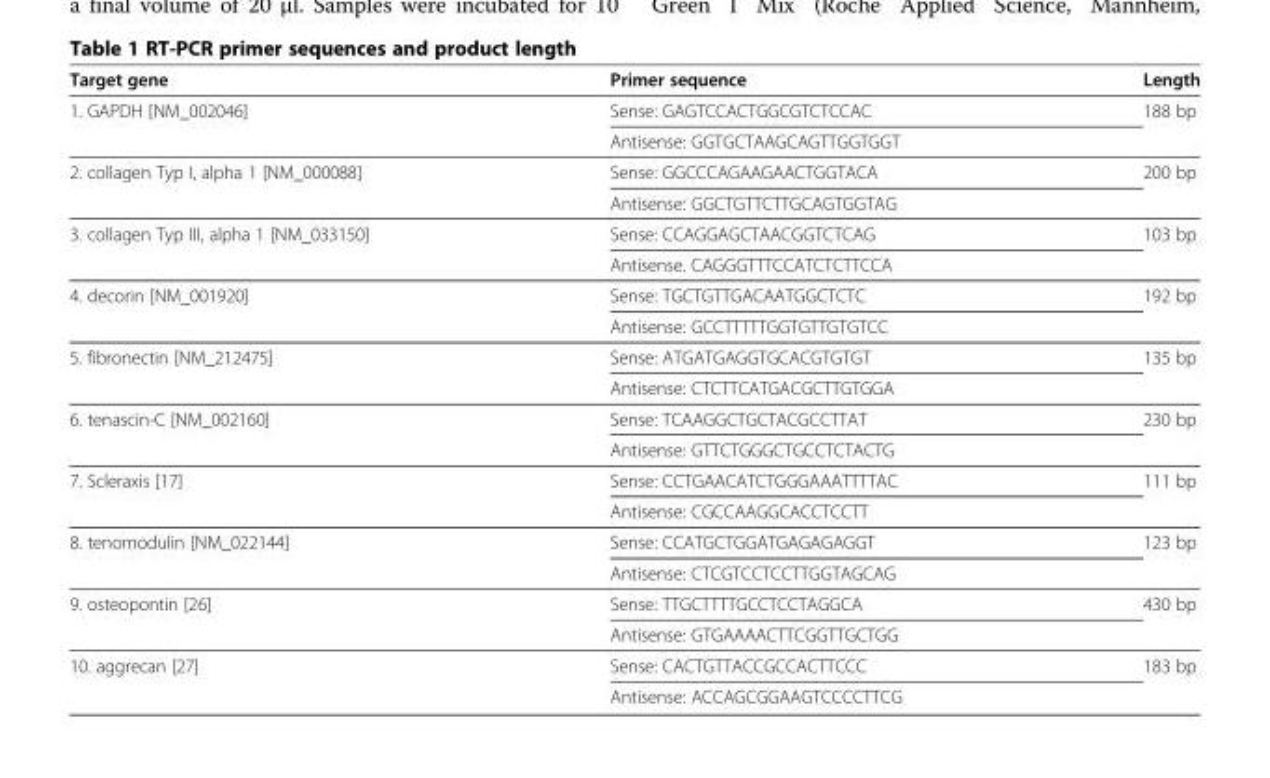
<table><thead><tr><td>Target gene</td><td>Primer sequence</td><td>Length</td></tr></thead><tbody><tr><td rowspan="2">1. GAPDH [NM_002046]</td><td>Sense: GAGTCCACTGGCGTCTCCAC</td><td>188 bp</td></tr><tr><td>Antisense: GGTGCTAAGCAGTTGGTGGT</td><td></td></tr><tr><td rowspan="2">2. collagen Typ I, alpha 1 [NM_000088]</td><td>Sense: GGCCCAGAAGAACTGGTACA</td><td>200 bp</td></tr><tr><td>Antisense: GGCTGTTCTTGCAGTGGTAG</td><td></td></tr><tr><td rowspan="2">3. collagen Typ III, alpha 1 [NM_033150]</td><td>Sense: CCAGGAGCTAACGGTCTCAG</td><td>103 bp</td></tr><tr><td>Antisense. CAGGGTTTCCATCTCTTCCA</td><td></td></tr><tr><td rowspan="2">4. decorin [NM_001920]</td><td>Sense: TGCTGTTGACAATGGCTCTC</td><td>192 bp</td></tr><tr><td>Antisense: GCCTTTTTGGTGTTGTGTCC</td><td></td></tr><tr><td rowspan="2">5. fibronectin [NM_212475]</td><td>Sense: ATGATGAGGTGCACGTGTGT</td><td>135 bp</td></tr><tr><td>Antisense: CTCTTCATGACGCTTGTGGA</td><td></td></tr><tr><td rowspan="2">6. tenascin-C [NM_002160]</td><td>Sense: TCAAGGCTGCTACGCCTTAT</td><td>230 bp</td></tr><tr><td>Antisense: GTTCTGGGCTGCCTCTACTG</td><td></td></tr><tr><td rowspan="2">7. Scleraxis [17]</td><td>Sense: CCTGAACATCTGGGAAATTTTAC</td><td>111 bp</td></tr><tr><td>Antisense: CGCCAAGGCACCTCCTT</td><td></td></tr><tr><td rowspan="2">8. tenomodulin [NM_022144]</td><td>Sense: CCATGCTGGATGAGAGAGGT</td><td>123 bp</td></tr><tr><td>Antisense: CTCGTCCTCCTTGGTAGCAG</td><td></td></tr><tr><td rowspan="2">9. osteopontin [26]</td><td>Sense: TTGCTTTTGCCTCCTAGGCA</td><td>430 bp</td></tr><tr><td>Antisense: GTGAAAACTTCGGTTGCTGG</td><td></td></tr><tr><td rowspan="2">10. aggrecan [27]</td><td>Sense: CACTGTTACCGCCACTTCCC</td><td>183 bp</td></tr><tr><td>Antisense: ACCAGCGGAAGTCCCCTTCG</td><td></td></tr></tbody></table>